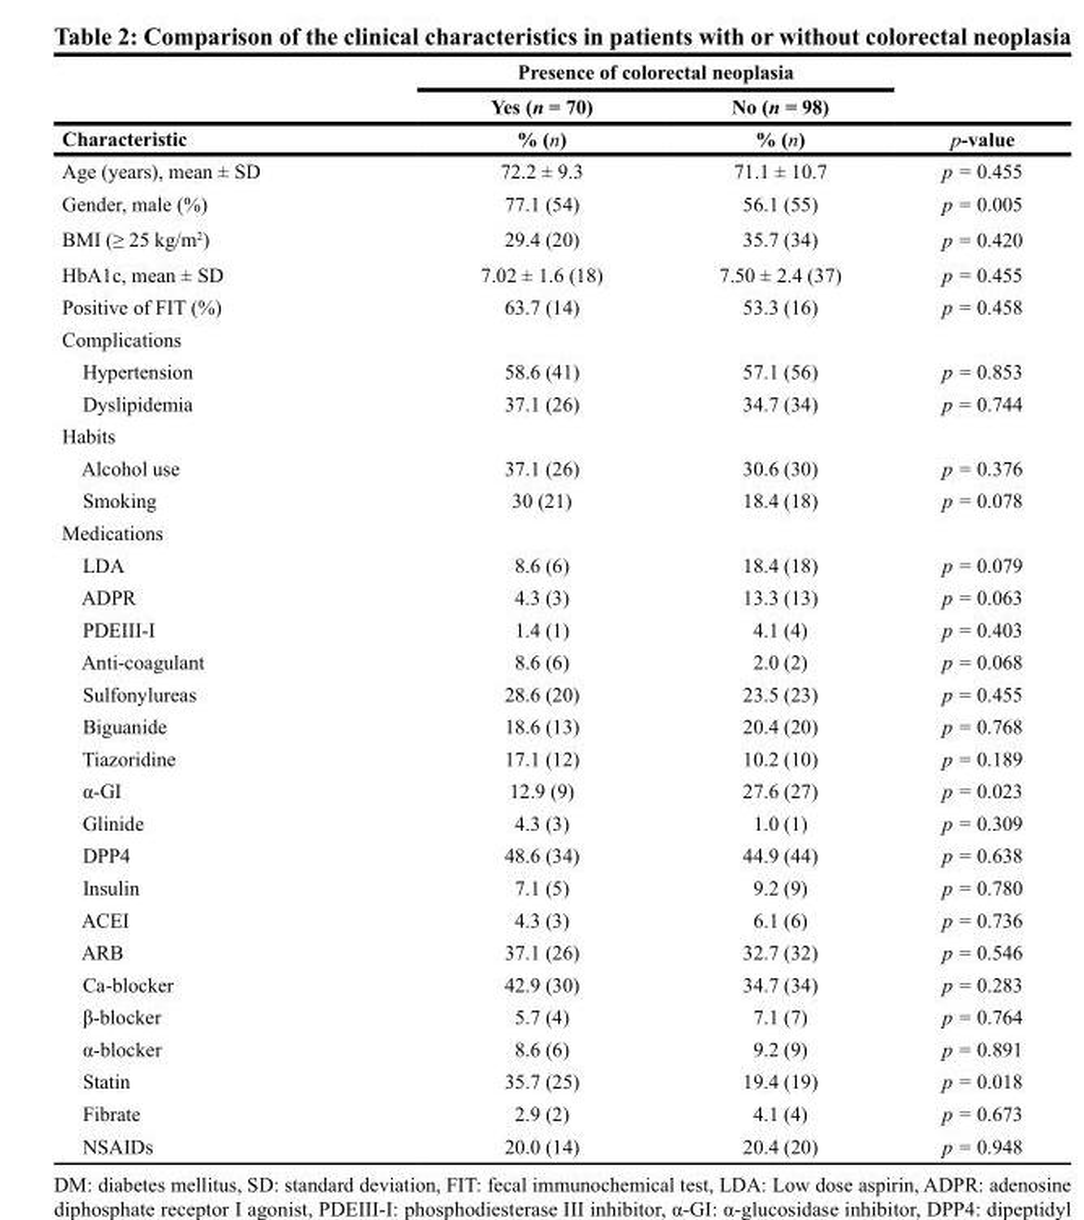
<table><thead><tr><td rowspan="3">Characteristic</td><td colspan="2">Presence of colorectal neoplasia</td><td rowspan="3">p-value</td></tr><tr><td rowspan="2">Yes (n = 70) % (n)</td><td rowspan="2">No (n = 98) % (n)</td></tr><tr></tr></thead><tbody><tr><td>Age (years), mean ± SD</td><td>72.2 ± 9.3</td><td>71.1 ± 10.7</td><td>p = 0.455</td></tr><tr><td>Gender, male (%)</td><td>77.1 (54)</td><td>56.1 (55)</td><td>p = 0.005</td></tr><tr><td>BMI (≥ 25 kg/m<sup>2</sup>)</td><td>29.4 (20)</td><td>35.7 (34)</td><td>p = 0.420</td></tr><tr><td>HbA1c, mean ± SD</td><td>7.02 ± 1.6 (18)</td><td>7.50 ± 2.4 (37)</td><td>p = 0.455</td></tr><tr><td>Positive of FIT (%)</td><td>63.7 (14)</td><td>53.3 (16)</td><td>p = 0.458</td></tr><tr><td colspan="4">Complications</td></tr><tr><td>Hypertension</td><td>58.6 (41)</td><td>57.1 (56)</td><td>p = 0.853</td></tr><tr><td>Dyslipidemia</td><td>37.1 (26)</td><td>34.7 (34)</td><td>p = 0.744</td></tr><tr><td colspan="4">Habits</td></tr><tr><td>Alcohol use</td><td>37.1 (26)</td><td>30.6 (30)</td><td>p = 0.376</td></tr><tr><td>Smoking</td><td>30 (21)</td><td>18.4 (18)</td><td>p = 0.078</td></tr><tr><td colspan="4">Medications</td></tr><tr><td>LDA</td><td>8.6 (6)</td><td>18.4 (18)</td><td>p = 0.079</td></tr><tr><td>ADPR</td><td>4.3 (3)</td><td>13.3 (13)</td><td>p = 0.063</td></tr><tr><td>PDEIII-I</td><td>1.4 (1)</td><td>4.1 (4)</td><td>p = 0.403</td></tr><tr><td>Anti-coagulant</td><td>8.6 (6)</td><td>2.0 (2)</td><td>p = 0.068</td></tr><tr><td>Sulfonylureas</td><td>28.6 (20)</td><td>23.5 (23)</td><td>p = 0.455</td></tr><tr><td>Biguanide</td><td>18.6 (13)</td><td>20.4 (20)</td><td>p = 0.768</td></tr><tr><td>Tiazoridine</td><td>17.1 (12)</td><td>10.2 (10)</td><td>p = 0.189</td></tr><tr><td>α-GI</td><td>12.9 (9)</td><td>27.6 (27)</td><td>p = 0.023</td></tr><tr><td>Glinide</td><td>4.3 (3)</td><td>1.0 (1)</td><td>p = 0.309</td></tr><tr><td>DPP4</td><td>48.6 (34)</td><td>44.9 (44)</td><td>p = 0.638</td></tr><tr><td>Insulin</td><td>7.1 (5)</td><td>9.2 (9)</td><td>p = 0.780</td></tr><tr><td>ACEI</td><td>4.3 (3)</td><td>6.1 (6)</td><td>p = 0.736</td></tr><tr><td>ARB</td><td>37.1 (26)</td><td>32.7 (32)</td><td>p = 0.546</td></tr><tr><td>Ca-blocker</td><td>42.9 (30)</td><td>34.7 (34)</td><td>p = 0.283</td></tr><tr><td>β-blocker</td><td>5.7 (4)</td><td>7.1 (7)</td><td>p = 0.764</td></tr><tr><td>α-blocker</td><td>8.6 (6)</td><td>9.2 (9)</td><td>p = 0.891</td></tr><tr><td>Statin</td><td>35.7 (25)</td><td>19.4 (19)</td><td>p = 0.018</td></tr><tr><td>Fibrate</td><td>2.9 (2)</td><td>4.1 (4)</td><td>p = 0.673</td></tr><tr><td>NSAIDs</td><td>20.0 (14)</td><td>20.4 (20)</td><td>p = 0.948</td></tr></tbody></table>